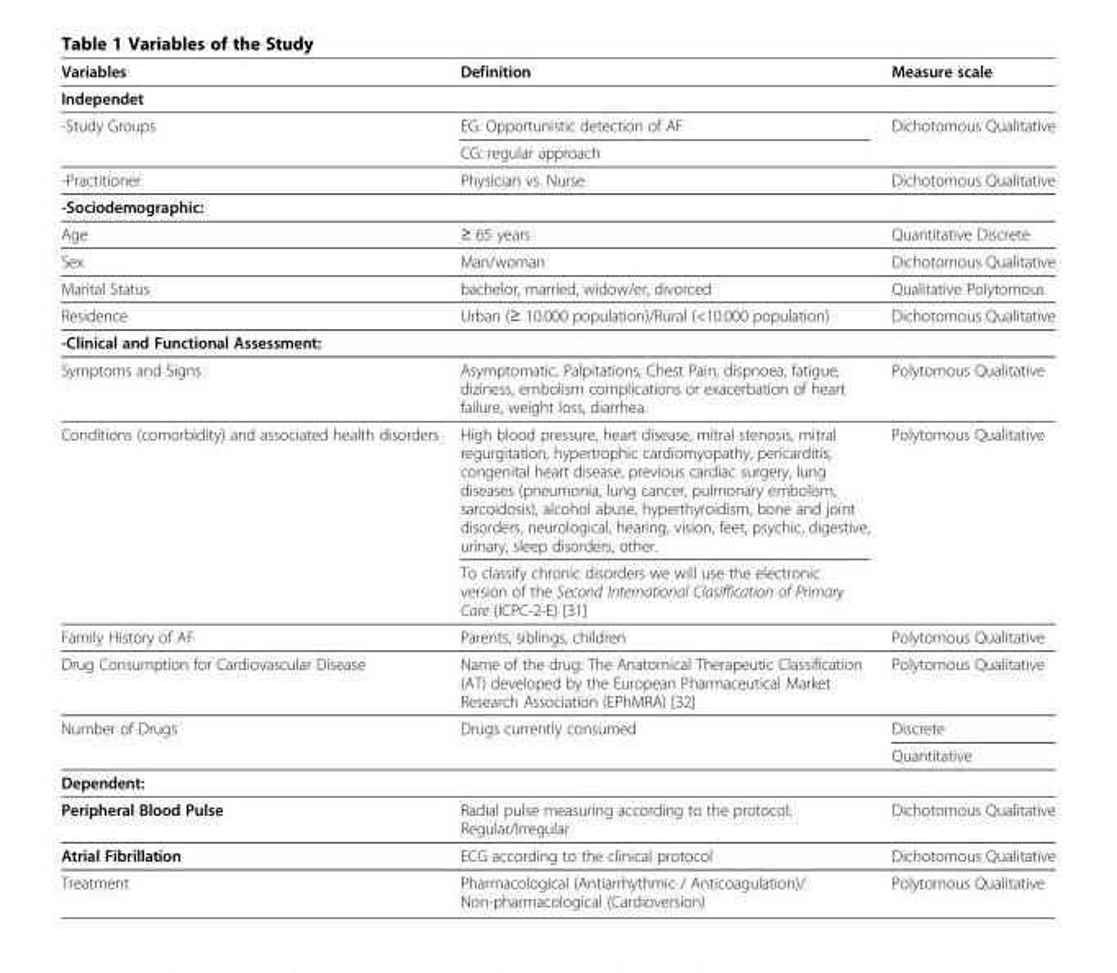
<table><thead><tr><td>Variables</td><td>Definition</td><td>Measure scale</td></tr></thead><tbody><tr><td colspan="3">Independet</td></tr><tr><td rowspan="2">-Study Groups</td><td>EG: Opportunistic detection of AF</td><td rowspan="2">Dichotomous Qualitative</td></tr><tr><td>CG: regular approach</td></tr><tr><td>-Practitioner</td><td>Physician vs. Nurse</td><td>Dichotomous Qualitative</td></tr><tr><td colspan="3">-Sociodemographic:</td></tr><tr><td>Age</td><td>≥ 65 years</td><td>Quantitative Discrete</td></tr><tr><td>Sex</td><td>Man/woman</td><td>Dichotomous Qualitative</td></tr><tr><td>Marital Status</td><td>bachelor, married, widow/er, divorced</td><td>Qualitative Polytomous</td></tr><tr><td>Residence</td><td>Urban (≥ 10.000 population)/Rural (&lt;10.000 population)</td><td>Dichotomous Qualitative</td></tr><tr><td colspan="3">-Clinical and Functional Assessment:</td></tr><tr><td>Symptoms and Signs</td><td>Asymptomatic, Palpitations, Chest Pain, dispnoea, fatigue, diziness, embolism complications or exacerbation of heart failure, weight loss, diarrhea.</td><td>Polytomous Qualitative</td></tr><tr><td rowspan="2">Conditions (comorbidity) and associated health disorders</td><td>High blood pressure, heart disease, mitral stenosis, mitral regurgitation, hypertrophic cardiomyopathy, pericarditis, congenital heart disease, previous cardiac surgery, lung diseases (pneumonia, lung cancer, pulmonary embolism, sarcoidosis), alcohol abuse, hyperthyroidism, bone and joint disorders, neurological, hearing, vision, feet, psychic, digestive, urinary, sleep disorders, other.</td><td rowspan="2">Polytomous Qualitative</td></tr><tr><td>To classify chronic disorders we will use the electronic version of the Second International Clasiffication of Primary Care (ICPC-2-E) [31]</td></tr><tr><td>Family History of AF</td><td>Parents, siblings, children</td><td>Polytomous Qualitative</td></tr><tr><td>Drug Consumption for Cardiovascular Disease</td><td>Name of the drug: The Anatomical Therapeutic Classification (AT) developed by the European Pharmaceutical Market Research Association (EPhMRA) [32]</td><td>Polytomous Qualitative</td></tr><tr><td rowspan="2">Number of Drugs</td><td rowspan="2">Drugs currently consumed</td><td>Discrete</td></tr><tr><td>Quantitative</td></tr><tr><td colspan="3">Dependent:</td></tr><tr><td>Peripheral Blood Pulse</td><td>Radial pulse measuring according to the protocol: Regular/Irregular</td><td>Dichotomous Qualitative</td></tr><tr><td>Atrial Fibrillation</td><td>ECG according to the clinical protocol</td><td>Dichotomous Qualitative</td></tr><tr><td>Treatment</td><td>Pharmacological (Antiarrhythmic / Anticoagulation)/ Non-pharmacological (Cardioversion)</td><td>Polytomous Qualitative</td></tr></tbody></table>